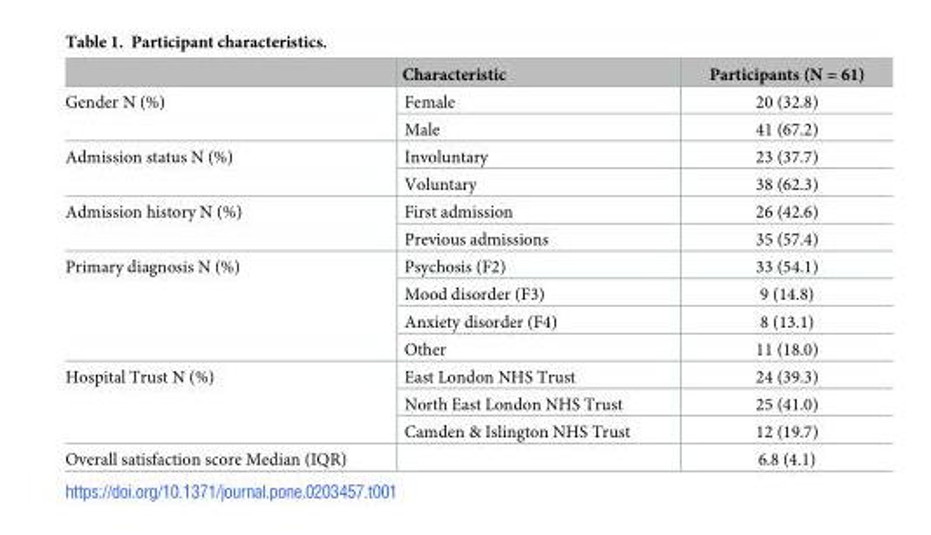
<table><thead><tr><td></td><td>Characteristic</td><td>Participants (N = 61)</td></tr></thead><tbody><tr><td rowspan="2">Gender N (%)</td><td>Female</td><td>20 (32.8)</td></tr><tr><td>Male</td><td>41 (67.2)</td></tr><tr><td rowspan="2">Admission status N (%)</td><td>Involuntary</td><td>23 (37.7)</td></tr><tr><td>Voluntary</td><td>38 (62.3)</td></tr><tr><td rowspan="2">Admission history N (%)</td><td>First admission</td><td>26 (42.6)</td></tr><tr><td>Previous admissions</td><td>35 (57.4)</td></tr><tr><td rowspan="4">Primary diagnosis N (%)</td><td>Psychosis (F2)</td><td>33 (54.1)</td></tr><tr><td>Mood disorder (F3)</td><td>9 (14.8)</td></tr><tr><td>Anxiety disorder (F4)</td><td>8 (13.1)</td></tr><tr><td>Other</td><td>11 (18.0)</td></tr><tr><td rowspan="3">Hospital Trust N (%)</td><td>East London NHS Trust</td><td>24 (39.3)</td></tr><tr><td>North East London NHS Trust</td><td>25 (41.0)</td></tr><tr><td>Camden &amp; Islington NHS Trust</td><td>12 (19.7)</td></tr><tr><td>Overall satisfaction score Median (IQR)</td><td></td><td>6.8 (4.1)</td></tr></tbody></table>